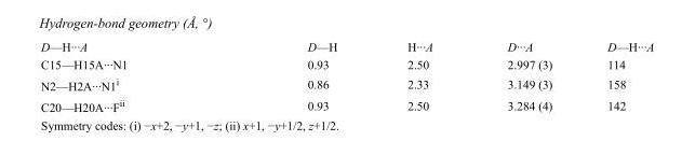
<table><tbody><tr><td>D—H···A</td><td>D—H</td><td>H···A</td><td>D···A</td><td>D—H···A</td></tr><tr><td>C15—H15A···N1</td><td>0.93</td><td>2.50</td><td>2.997 (3)</td><td>114</td></tr><tr><td>N2—H2A···N1<sup>i</sup></td><td>0.86</td><td>2.33</td><td>3.149 (3)</td><td>158</td></tr><tr><td>C20—H20A···F<sup>ii</sup></td><td>0.93</td><td>2.50</td><td>3.284 (4)</td><td>142</td></tr></tbody></table>